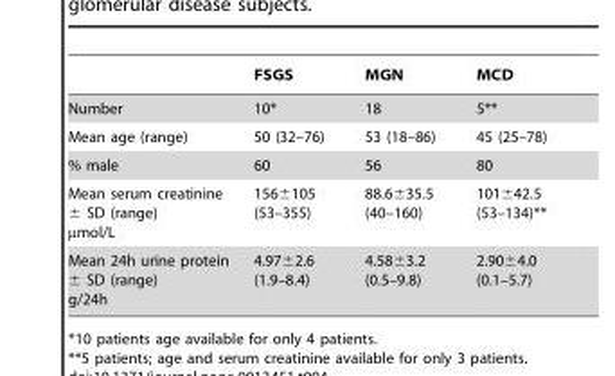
<table><thead><tr><td></td><td>FSGS</td><td>MGN</td><td>MCD</td></tr></thead><tbody><tr><td>Number</td><td>10*</td><td>18</td><td>5**</td></tr><tr><td>Mean age (range)</td><td>50 (32–76)</td><td>53 (18–86)</td><td>45 (25–78)</td></tr><tr><td>% male</td><td>60</td><td>56</td><td>80</td></tr><tr><td>Mean serum creatinine ± SD (range) µmol/L</td><td>156±105 (53–355)</td><td>88.6±35.5 (40–160)</td><td>101±42.5 (53–134)**</td></tr><tr><td>Mean 24h urine protein ± SD (range) g/24h</td><td>4.97±2.6 (1.9–8.4)</td><td>4.58±3.2 (0.5–9.8)</td><td>2.90±4.0 (0.1–5.7)</td></tr></tbody></table>